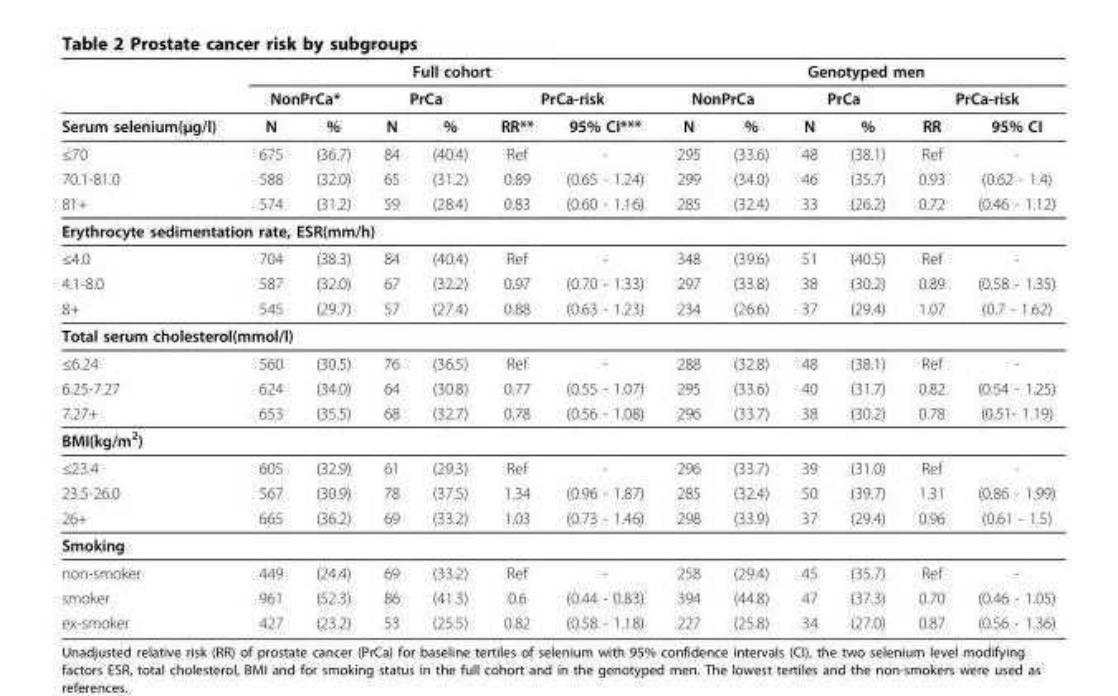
<table><thead><tr><td rowspan="3">Serum selenium(μg/l)</td><td colspan="6">Full cohort</td><td colspan="6">Genotyped men</td></tr><tr><td colspan="2">NonPrCa*</td><td colspan="2">PrCa</td><td colspan="2">PrCa-risk</td><td colspan="2">NonPrCa</td><td colspan="2">PrCa</td><td colspan="2">PrCa-risk</td></tr><tr><td>N</td><td>%</td><td>N</td><td>%</td><td>RR**</td><td>95% CI***</td><td>N</td><td>%</td><td>N</td><td>%</td><td>RR</td><td>95% CI</td></tr></thead><tbody><tr><td>≤70</td><td>675</td><td>(36.7)</td><td>84</td><td>(40.4)</td><td>Ref</td><td>-</td><td>295</td><td>(33.6)</td><td>48</td><td>(38.1)</td><td>Ref</td><td>-</td></tr><tr><td>70.1-81.0</td><td>588</td><td>(32.0)</td><td>65</td><td>(31.2)</td><td>0.89</td><td>(0.65 - 1.24)</td><td>299</td><td>(34.0)</td><td>46</td><td>(35.7)</td><td>0.93</td><td>(0.62 - 1.4)</td></tr><tr><td>81+</td><td>574</td><td>(31.2)</td><td>59</td><td>(28.4)</td><td>0.83</td><td>(0.60 - 1.16)</td><td>285</td><td>(32.4)</td><td>33</td><td>(26.2)</td><td>0.72</td><td>(0.46 - 1.12)</td></tr><tr><td colspan="13">Erythrocyte sedimentation rate, ESR(mm/h)</td></tr><tr><td>≤4.0</td><td>704</td><td>(38.3)</td><td>84</td><td>(40.4)</td><td>Ref</td><td>-</td><td>348</td><td>(39.6)</td><td>51</td><td>(40.5)</td><td>Ref</td><td>-</td></tr><tr><td>4.1-8.0</td><td>587</td><td>(32.0)</td><td>67</td><td>(32.2)</td><td>0.97</td><td>(0.70 - 1.33)</td><td>297</td><td>(33.8)</td><td>38</td><td>(30.2)</td><td>0.89</td><td>(0.58 - 1.35)</td></tr><tr><td>8+</td><td>545</td><td>(29.7)</td><td>57</td><td>(27.4)</td><td>0.88</td><td>(0.63 - 1.23)</td><td>234</td><td>(26.6)</td><td>37</td><td>(29.4)</td><td>1.07</td><td>(0.7 - 1.62)</td></tr><tr><td colspan="13">Total serum cholesterol(mmol/l)</td></tr><tr><td>≤6.24</td><td>560</td><td>(30.5)</td><td>76</td><td>(36.5)</td><td>Ref</td><td>-</td><td>288</td><td>(32.8)</td><td>48</td><td>(38.1)</td><td>Ref</td><td>-</td></tr><tr><td>6.25-7.27</td><td>624</td><td>(34.0)</td><td>64</td><td>(30.8)</td><td>0.77</td><td>(0.55 - 1.07)</td><td>295</td><td>(33.6)</td><td>40</td><td>(31.7)</td><td>0.82</td><td>(0.54 - 1.25)</td></tr><tr><td>7.27+</td><td>653</td><td>(35.5)</td><td>68</td><td>(32.7)</td><td>0.78</td><td>(0.56 - 1.08)</td><td>296</td><td>(33.7)</td><td>38</td><td>(30.2)</td><td>0.78</td><td>(0.51- 1.19)</td></tr><tr><td colspan="13">BMI(kg/m<sup>2</sup>)</td></tr><tr><td>≤23.4</td><td>605</td><td>(32.9)</td><td>61</td><td>(29.3)</td><td>Ref</td><td>-</td><td>296</td><td>(33.7)</td><td>39</td><td>(31.0)</td><td>Ref</td><td>-</td></tr><tr><td>23.5-26.0</td><td>567</td><td>(30.9)</td><td>78</td><td>(37.5)</td><td>1.34</td><td>(0.96 - 1.87)</td><td>285</td><td>(32.4)</td><td>50</td><td>(39.7)</td><td>1.31</td><td>(0.86 - 1.99)</td></tr><tr><td>26+</td><td>665</td><td>(36.2)</td><td>69</td><td>(33.2)</td><td>1.03</td><td>(0.73 - 1.46)</td><td>298</td><td>(33.9)</td><td>37</td><td>(29.4)</td><td>0.96</td><td>(0.61 - 1.5)</td></tr><tr><td colspan="13">Smoking</td></tr><tr><td>non-smoker</td><td>449</td><td>(24.4)</td><td>69</td><td>(33.2)</td><td>Ref</td><td>-</td><td>258</td><td>(29.4)</td><td>45</td><td>(35.7)</td><td>Ref</td><td>-</td></tr><tr><td>smoker</td><td>961</td><td>(52.3)</td><td>86</td><td>(41.3)</td><td>0.6</td><td>(0.44 - 0.83)</td><td>394</td><td>(44.8)</td><td>47</td><td>(37.3)</td><td>0.70</td><td>(0.46 - 1.05)</td></tr><tr><td>ex-smoker</td><td>427</td><td>(23.2)</td><td>53</td><td>(25.5)</td><td>0.82</td><td>(0.58 - 1.18)</td><td>227</td><td>(25.8)</td><td>34</td><td>(27.0)</td><td>0.87</td><td>(0.56 - 1.36)</td></tr></tbody></table>